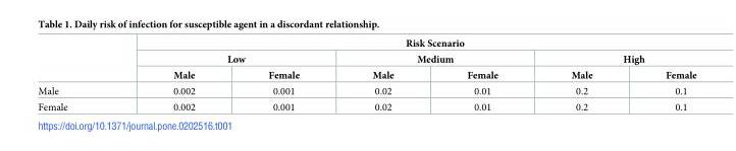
<table><thead><tr><td rowspan="3"></td><td colspan="6">Risk Scenario</td></tr><tr><td colspan="2">Low</td><td colspan="2">Medium</td><td colspan="2">High</td></tr><tr><td>Male</td><td>Female</td><td>Male</td><td>Female</td><td>Male</td><td>Female</td></tr></thead><tbody><tr><td>Male</td><td>0.002</td><td>0.001</td><td>0.02</td><td>0.01</td><td>0.2</td><td>0.1</td></tr><tr><td>Female</td><td>0.002</td><td>0.001</td><td>0.02</td><td>0.01</td><td>0.2</td><td>0.1</td></tr></tbody></table>